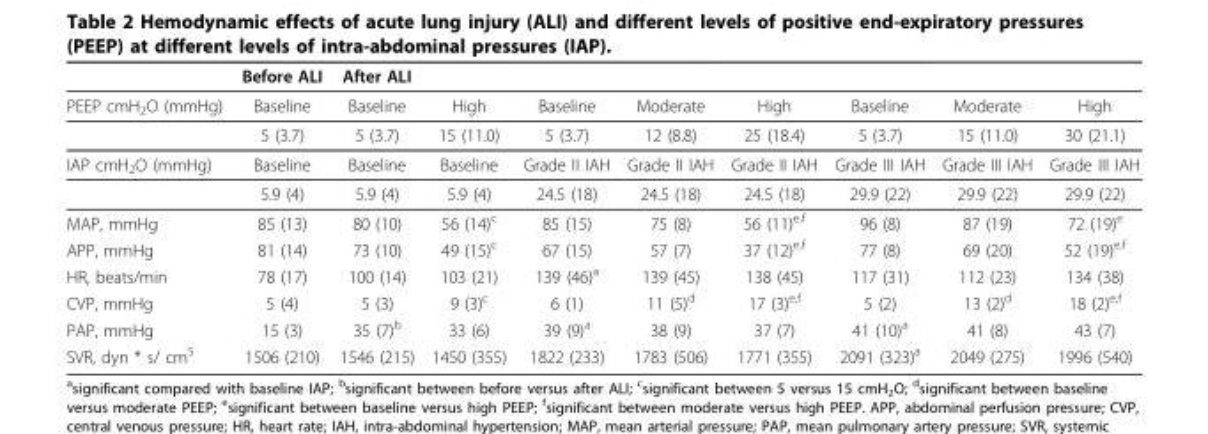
<table><thead><tr><td></td><td>Before ALI</td><td>After ALI</td><td></td><td></td><td></td><td></td><td></td><td></td><td></td></tr></thead><tbody><tr><td rowspan="2">PEEP cmH<sub>2</sub>O (mmHg)</td><td>Baseline</td><td>Baseline</td><td>High</td><td>Baseline</td><td>Moderate</td><td>High</td><td>Baseline</td><td>Moderate</td><td>High</td></tr><tr><td>5 (3.7)</td><td>5 (3.7)</td><td>15 (11.0)</td><td>5 (3.7)</td><td>12 (8.8)</td><td>25 (18.4)</td><td>5 (3.7)</td><td>15 (11.0)</td><td>30 (21.1)</td></tr><tr><td rowspan="2">IAP cmH<sub>2</sub>O (mmHg)</td><td>Baseline</td><td>Baseline</td><td>Baseline</td><td>Grade II IAH</td><td>Grade II IAH</td><td>Grade II IAH</td><td>Grade III IAH</td><td>Grade III IAH</td><td>Grade III IAH</td></tr><tr><td>5.9 (4)</td><td>5.9 (4)</td><td>5.9 (4)</td><td>24.5 (18)</td><td>24.5 (18)</td><td>24.5 (18)</td><td>29.9 (22)</td><td>29.9 (22)</td><td>29.9 (22)</td></tr><tr><td>MAP, mmHg</td><td>85 (13)</td><td>80 (10)</td><td>56 (14)<sup>c</sup></td><td>85 (15)</td><td>75 (8)</td><td>56 (11)<sup>e,f</sup></td><td>96 (8)</td><td>87 (19)</td><td>72 (19)<sup>e</sup></td></tr><tr><td>APP, mmHg</td><td>81 (14)</td><td>73 (10)</td><td>49 (15)<sup>c</sup></td><td>67 (15)</td><td>57 (7)</td><td>37 (12)<sup>e,f</sup></td><td>77 (8)</td><td>69 (20)</td><td>52 (19)<sup>e,f</sup></td></tr><tr><td>HR, beats/min</td><td>78 (17)</td><td>100 (14)</td><td>103 (21)</td><td>139 (46)<sup>a</sup></td><td>139 (45)</td><td>138 (45)</td><td>117 (31)</td><td>112 (23)</td><td>134 (38)</td></tr><tr><td>CVP, mmHg</td><td>5 (4)</td><td>5 (3)</td><td>9 (3)<sup>c</sup></td><td>6 (1)</td><td>11 (5)<sup>d</sup></td><td>17 (3)<sup>e,f</sup></td><td>5 (2)</td><td>13 (2)<sup>d</sup></td><td>18 (2)<sup>e,f</sup></td></tr><tr><td>PAP, mmHg</td><td>15 (3)</td><td>35 (7)<sup>b</sup></td><td>33 (6)</td><td>39 (9)<sup>a</sup></td><td>38 (9)</td><td>37 (7)</td><td>41 (10)<sup>a</sup></td><td>41 (8)</td><td>43 (7)</td></tr><tr><td>SVR, dyn * s/ cm<sup>5</sup></td><td>1506 (210)</td><td>1546 (215)</td><td>1450 (355)</td><td>1822 (233)</td><td>1783 (506)</td><td>1771 (355)</td><td>2091 (323)<sup>a</sup></td><td>2049 (275)</td><td>1996 (540)</td></tr></tbody></table>